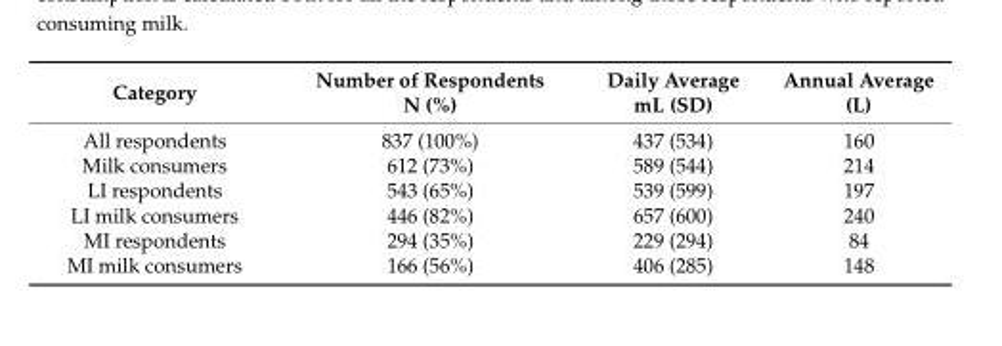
<table><thead><tr><td>Category</td><td>Number of Respondents N (%)</td><td>Daily Average mL (SD)</td><td>Annual Average (L)</td></tr></thead><tbody><tr><td>All respondents</td><td>837 (100%)</td><td>437 (534)</td><td>160</td></tr><tr><td>Milk consumers</td><td>612 (73%)</td><td>589 (544)</td><td>214</td></tr><tr><td>LI respondents</td><td>543 (65%)</td><td>539 (599)</td><td>197</td></tr><tr><td>LI milk consumers</td><td>446 (82%)</td><td>657 (600)</td><td>240</td></tr><tr><td>MI respondents</td><td>294 (35%)</td><td>229 (294)</td><td>84</td></tr><tr><td>MI milk consumers</td><td>166 (56%)</td><td>406 (285)</td><td>148</td></tr></tbody></table>